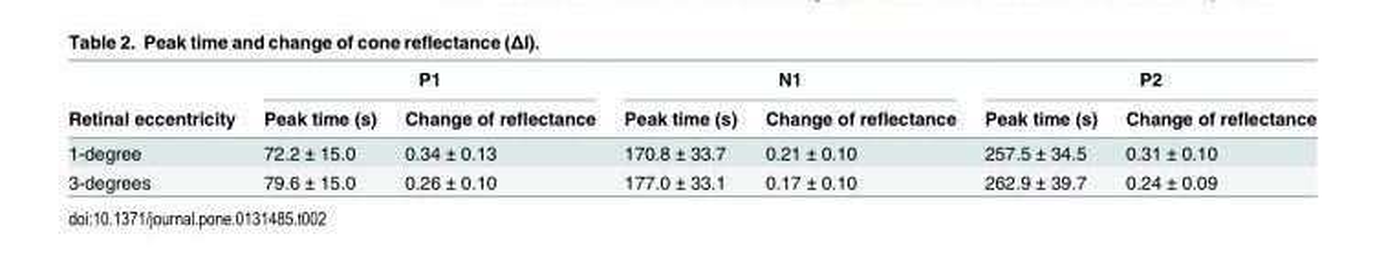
<table><thead><tr><td rowspan="2">Retinal eccentricity</td><td colspan="2">P1</td><td colspan="2">N1</td><td colspan="2">P2</td></tr><tr><td>Peak time (s)</td><td>Change of reflectance</td><td>Peak time (s)</td><td>Change of reflectance</td><td>Peak time (s)</td><td>Change of reflectance</td></tr></thead><tbody><tr><td>1-degree</td><td>72.2 ± 15.0</td><td>0.34 ± 0.13</td><td>170.8 ± 33.7</td><td>0.21 ± 0.10</td><td>257.5 ± 34.5</td><td>0.31 ± 0.10</td></tr><tr><td>3-degrees</td><td>79.6 ± 15.0</td><td>0.26 ± 0.10</td><td>177.0 ± 33.1</td><td>0.17 ± 0.10</td><td>262.9 ± 39.7</td><td>0.24 ± 0.09</td></tr></tbody></table>